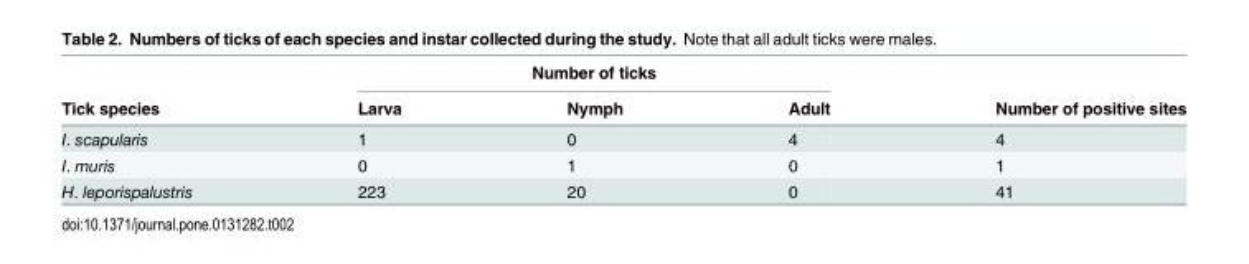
<table><thead><tr><td rowspan="2">Tick species</td><td rowspan="2">Larva</td><td rowspan="2">Number of ticks Nymph</td><td rowspan="2">Adult</td><td rowspan="2">Number of positive sites</td></tr><tr></tr></thead><tbody><tr><td>I. scapularis</td><td>1</td><td>0</td><td>4</td><td>4</td></tr><tr><td>I. muris</td><td>0</td><td>1</td><td>0</td><td>1</td></tr><tr><td>H. leporispalustris</td><td>223</td><td>20</td><td>0</td><td>41</td></tr></tbody></table>